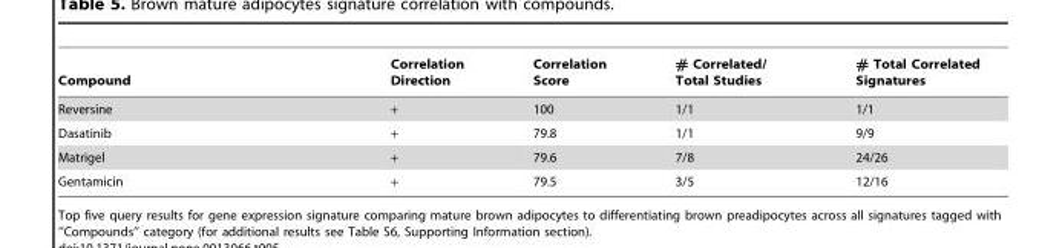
<table><thead><tr><td>Compound</td><td>Correlation Direction</td><td>Correlation Score</td><td># Correlated/ Total Studies</td><td># Total Correlated Signatures</td></tr></thead><tbody><tr><td>Reversine</td><td>+</td><td>100</td><td>1/1</td><td>1/1</td></tr><tr><td>Dasatinib</td><td>+</td><td>79.8</td><td>1/1</td><td>9/9</td></tr><tr><td>Matrigel</td><td>+</td><td>79.6</td><td>7/8</td><td>24/26</td></tr><tr><td>Gentamicin</td><td>+</td><td>79.5</td><td>3/5</td><td>12/16</td></tr></tbody></table>